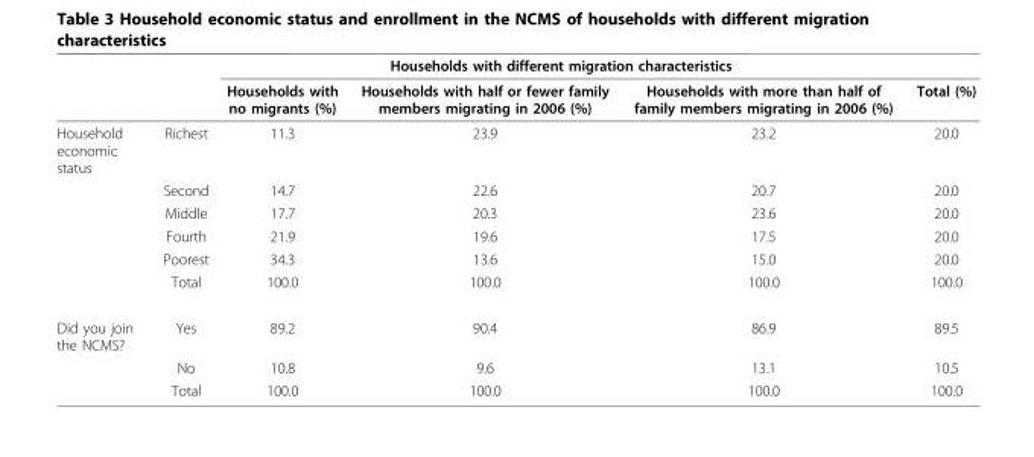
<table><thead><tr><td rowspan="2"></td><td rowspan="2"></td><td colspan="3">Households with different migration characteristics</td><td rowspan="2">Total (%)</td></tr><tr><td>Households with no migrants (%)</td><td>Households with half or fewer family members migrating in 2006 (%)</td><td>Households with more than half of family members migrating in 2006 (%)</td></tr></thead><tbody><tr><td rowspan="6">Household economic status</td><td>Richest</td><td>11.3</td><td>23.9</td><td>23.2</td><td>20.0</td></tr><tr><td>Second</td><td>14.7</td><td>22.6</td><td>20.7</td><td>20.0</td></tr><tr><td>Middle</td><td>17.7</td><td>20.3</td><td>23.6</td><td>20.0</td></tr><tr><td>Fourth</td><td>21.9</td><td>19.6</td><td>17.5</td><td>20.0</td></tr><tr><td>Poorest</td><td>34.3</td><td>13.6</td><td>15.0</td><td>20.0</td></tr><tr><td>Total</td><td>100.0</td><td>100.0</td><td>100.0</td><td>100.0</td></tr><tr><td rowspan="3">Did you join the NCMS?</td><td>Yes</td><td>89.2</td><td>90.4</td><td>86.9</td><td>89.5</td></tr><tr><td>No</td><td>10.8</td><td>9.6</td><td>13.1</td><td>10.5</td></tr><tr><td>Total</td><td>100.0</td><td>100.0</td><td>100.0</td><td>100.0</td></tr></tbody></table>